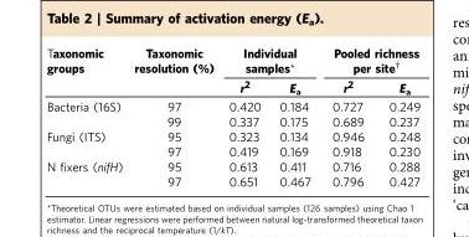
<table><thead><tr><td rowspan="2">Taxonomic groups</td><td rowspan="2">Taxonomic resolution (%)</td><td colspan="2">Individual samples*</td><td colspan="2">Pooled richness per site†</td></tr><tr><td>r<sup>2</sup></td><td>E<sub>a</sub></td><td>r<sup>2</sup></td><td>E<sub>a</sub></td></tr></thead><tbody><tr><td rowspan="2">Bacteria (16S)</td><td>97</td><td>0.420</td><td>0.184</td><td>0.727</td><td>0.249</td></tr><tr><td>99</td><td>0.337</td><td>0.175</td><td>0.689</td><td>0.237</td></tr><tr><td rowspan="2">Fungi (ITS)</td><td>95</td><td>0.323</td><td>0.134</td><td>0.946</td><td>0.248</td></tr><tr><td>97</td><td>0.419</td><td>0.169</td><td>0.918</td><td>0.230</td></tr><tr><td rowspan="2">N fixers (nifH)</td><td>95</td><td>0.613</td><td>0.411</td><td>0.716</td><td>0.288</td></tr><tr><td>97</td><td>0.651</td><td>0.467</td><td>0.796</td><td>0.427</td></tr></tbody></table>